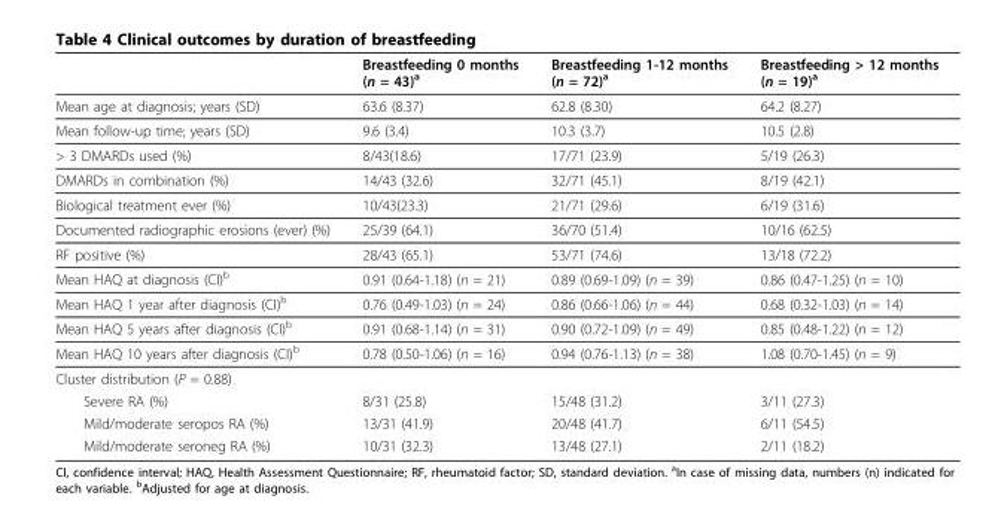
<table><thead><tr><td></td><td>Breastfeeding 0 months (n = 43)<sup>a</sup></td><td>Breastfeeding 1-12 months (n = 72)<sup>a</sup></td><td>Breastfeeding &gt; 12 months (n = 19)<sup>a</sup></td></tr></thead><tbody><tr><td>Mean age at diagnosis; years (SD)</td><td>63.6 (8.37)</td><td>62.8 (8.30)</td><td>64.2 (8.27)</td></tr><tr><td>Mean follow-up time; years (SD)</td><td>9.6 (3.4)</td><td>10.3 (3.7)</td><td>10.5 (2.8)</td></tr><tr><td>&gt; 3 DMARDs used (%)</td><td>8/43(18.6)</td><td>17/71 (23.9)</td><td>5/19 (26.3)</td></tr><tr><td>DMARDs in combination (%)</td><td>14/43 (32.6)</td><td>32/71 (45.1)</td><td>8/19 (42.1)</td></tr><tr><td>Biological treatment ever (%)</td><td>10/43(23.3)</td><td>21/71 (29.6)</td><td>6/19 (31.6)</td></tr><tr><td>Documented radiographic erosions (ever) (%)</td><td>25/39 (64.1)</td><td>36/70 (51.4)</td><td>10/16 (62.5)</td></tr><tr><td>RF positive (%)</td><td>28/43 (65.1)</td><td>53/71 (74.6)</td><td>13/18 (72.2)</td></tr><tr><td>Mean HAQ at diagnosis (CI)<sup>b</sup></td><td>0.91 (0.64-1.18) (n = 21)</td><td>0.89 (0.69-1.09) (n = 39)</td><td>0.86 (0.47-1.25) (n = 10)</td></tr><tr><td>Mean HAQ 1 year after diagnosis (CI)<sup>b</sup></td><td>0.76 (0.49-1.03) (n = 24)</td><td>0.86 (0.66-1.06) (n = 44)</td><td>0.68 (0.32-1.03) (n = 14)</td></tr><tr><td>Mean HAQ 5 years after diagnosis (CI)<sup>b</sup></td><td>0.91 (0.68-1.14) (n = 31)</td><td>0.90 (0.72-1.09) (n = 49)</td><td>0.85 (0.48-1.22) (n = 12)</td></tr><tr><td>Mean HAQ 10 years after diagnosis (CI)<sup>b</sup></td><td>0.78 (0.50-1.06) (n = 16)</td><td>0.94 (0.76-1.13) (n = 38)</td><td>1.08 (0.70-1.45) (n = 9)</td></tr><tr><td colspan="4">Cluster distribution (P = 0.88)</td></tr><tr><td>Severe RA (%)</td><td>8/31 (25.8)</td><td>15/48 (31.2)</td><td>3/11 (27.3)</td></tr><tr><td>Mild/moderate seropos RA (%)</td><td>13/31 (41.9)</td><td>20/48 (41.7)</td><td>6/11 (54.5)</td></tr><tr><td>Mild/moderate seroneg RA (%)</td><td>10/31 (32.3)</td><td>13/48 (27.1)</td><td>2/11 (18.2)</td></tr></tbody></table>